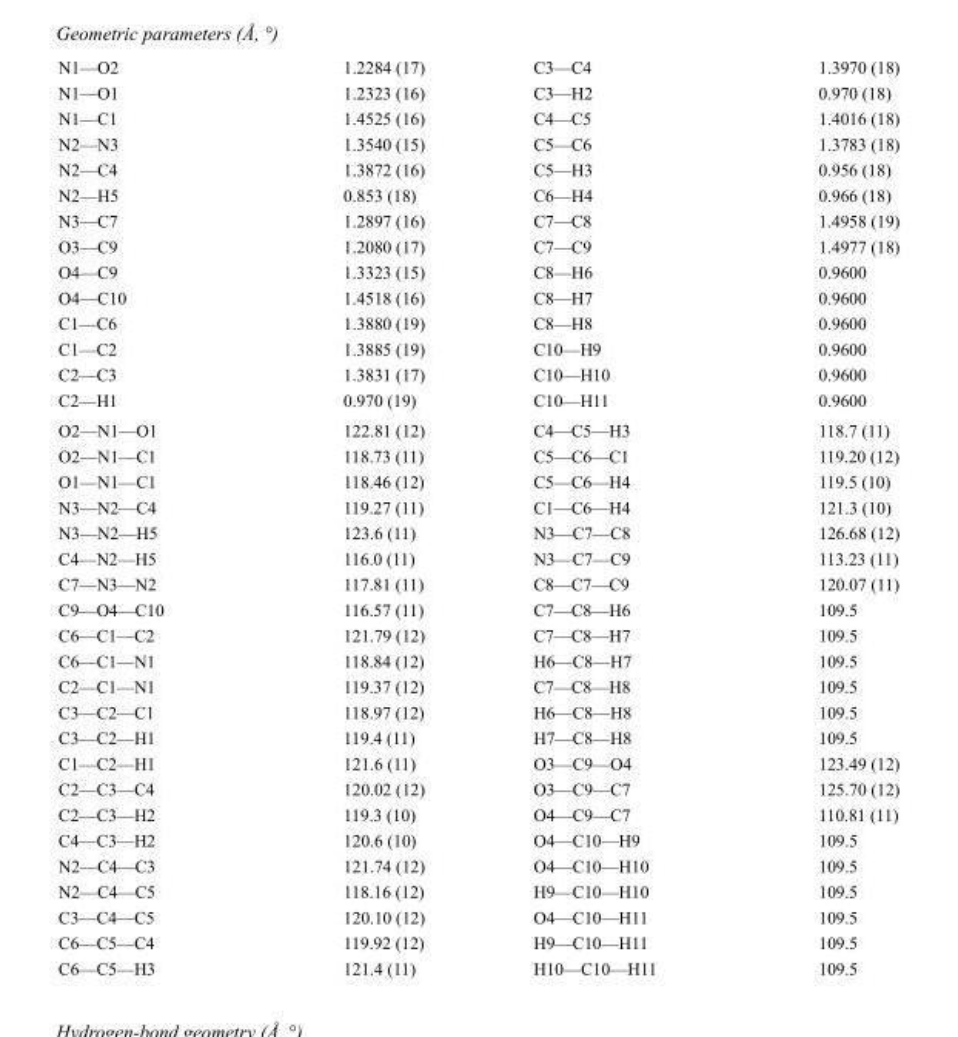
<table><tbody><tr><td>N1—O2</td><td>1.2284 (17)</td><td>C3—C4</td><td>1.3970 (18)</td></tr><tr><td>N1—O1</td><td>1.2323 (16)</td><td>C3—H2</td><td>0.970 (18)</td></tr><tr><td>N1—C1</td><td>1.4525 (16)</td><td>C4—C5</td><td>1.4016 (18)</td></tr><tr><td>N2—N3</td><td>1.3540 (15)</td><td>C5—C6</td><td>1.3783 (18)</td></tr><tr><td>N2—C4</td><td>1.3872 (16)</td><td>C5—H3</td><td>0.956 (18)</td></tr><tr><td>N2—H5</td><td>0.853 (18)</td><td>C6—H4</td><td>0.966 (18)</td></tr><tr><td>N3—C7</td><td>1.2897 (16)</td><td>C7—C8</td><td>1.4958 (19)</td></tr><tr><td>O3—C9</td><td>1.2080 (17)</td><td>C7—C9</td><td>1.4977 (18)</td></tr><tr><td>O4—C9</td><td>1.3323 (15)</td><td>C8—H6</td><td>0.9600</td></tr><tr><td>O4—C10</td><td>1.4518 (16)</td><td>C8—H7</td><td>0.9600</td></tr><tr><td>C1—C6</td><td>1.3880 (19)</td><td>C8—H8</td><td>0.9600</td></tr><tr><td>C1—C2</td><td>1.3885 (19)</td><td>C10—H9</td><td>0.9600</td></tr><tr><td>C2—C3</td><td>1.3831 (17)</td><td>C10—H10</td><td>0.9600</td></tr><tr><td>C2—H1</td><td>0.970 (19)</td><td>C10—H11</td><td>0.9600</td></tr><tr><td>O2—N1—O1</td><td>122.81 (12)</td><td>C4—C5—H3</td><td>118.7 (11)</td></tr><tr><td>O2—N1—C1</td><td>118.73 (11)</td><td>C5—C6—C1</td><td>119.20 (12)</td></tr><tr><td>O1—N1—C1</td><td>118.46 (12)</td><td>C5—C6—H4</td><td>119.5 (10)</td></tr><tr><td>N3—N2—C4</td><td>119.27 (11)</td><td>C1—C6—H4</td><td>121.3 (10)</td></tr><tr><td>N3—N2—H5</td><td>123.6 (11)</td><td>N3—C7—C8</td><td>126.68 (12)</td></tr><tr><td>C4—N2—H5</td><td>116.0 (11)</td><td>N3—C7—C9</td><td>113.23 (11)</td></tr><tr><td>C7—N3—N2</td><td>117.81 (11)</td><td>C8—C7—C9</td><td>120.07 (11)</td></tr><tr><td>C9—O4—C10</td><td>116.57 (11)</td><td>C7—C8—H6</td><td>109.5</td></tr><tr><td>C6—C1—C2</td><td>121.79 (12)</td><td>C7—C8—H7</td><td>109.5</td></tr><tr><td>C6—C1—N1</td><td>118.84 (12)</td><td>H6—C8—H7</td><td>109.5</td></tr><tr><td>C2—C1—N1</td><td>119.37 (12)</td><td>C7—C8—H8</td><td>109.5</td></tr><tr><td>C3—C2—C1</td><td>118.97 (12)</td><td>H6—C8—H8</td><td>109.5</td></tr><tr><td>C3—C2—H1</td><td>119.4 (11)</td><td>H7—C8—H8</td><td>109.5</td></tr><tr><td>C1—C2—H1</td><td>121.6 (11)</td><td>O3—C9—O4</td><td>123.49 (12)</td></tr><tr><td>C2—C3—C4</td><td>120.02 (12)</td><td>O3—C9—C7</td><td>125.70 (12)</td></tr><tr><td>C2—C3—H2</td><td>119.3 (10)</td><td>O4—C9—C7</td><td>110.81 (11)</td></tr><tr><td>C4—C3—H2</td><td>120.6 (10)</td><td>O4—C10—H9</td><td>109.5</td></tr><tr><td>N2—C4—C3</td><td>121.74 (12)</td><td>O4—C10—H10</td><td>109.5</td></tr><tr><td>N2—C4—C5</td><td>118.16 (12)</td><td>H9—C10—H10</td><td>109.5</td></tr><tr><td>C3—C4—C5</td><td>120.10 (12)</td><td>O4—C10—H11</td><td>109.5</td></tr><tr><td>C6—C5—C4</td><td>119.92 (12)</td><td>H9—C10—H11</td><td>109.5</td></tr><tr><td>C6—C5—H3</td><td>121.4 (11)</td><td>H10—C10—H11</td><td>109.5</td></tr></tbody></table>